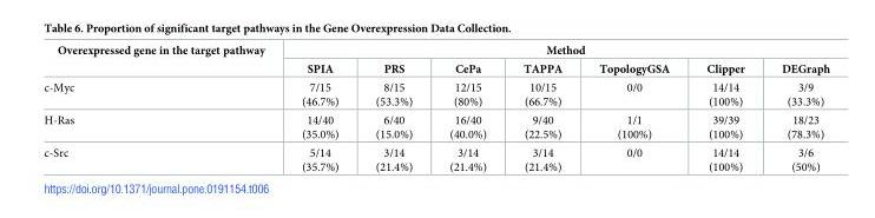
<table><thead><tr><td rowspan="2">Overexpressed gene in the target pathway</td><td colspan="7">Method</td></tr><tr><td>SPIA</td><td>PRS</td><td>CePa</td><td>TAPPA</td><td>TopologyGSA</td><td>Clipper</td><td>DEGraph</td></tr></thead><tbody><tr><td>c-Myc</td><td>7/15 (46.7%)</td><td>8/15 (53.3%)</td><td>12/15 (80%)</td><td>10/15 (66.7%)</td><td>0/0</td><td>14/14 (100%)</td><td>3/9 (33.3%)</td></tr><tr><td>H-Ras</td><td>14/40 (35.0%)</td><td>6/40 (15.0%)</td><td>16/40 (40.0%)</td><td>9/40 (22.5%)</td><td>1/1 (100%)</td><td>39/39 (100%)</td><td>18/23 (78.3%)</td></tr><tr><td>c-Src</td><td>5/14 (35.7%)</td><td>3/14 (21.4%)</td><td>3/14 (21.4%)</td><td>3/14 (21.4%)</td><td>0/0</td><td>14/14 (100%)</td><td>3/6 (50%)</td></tr></tbody></table>